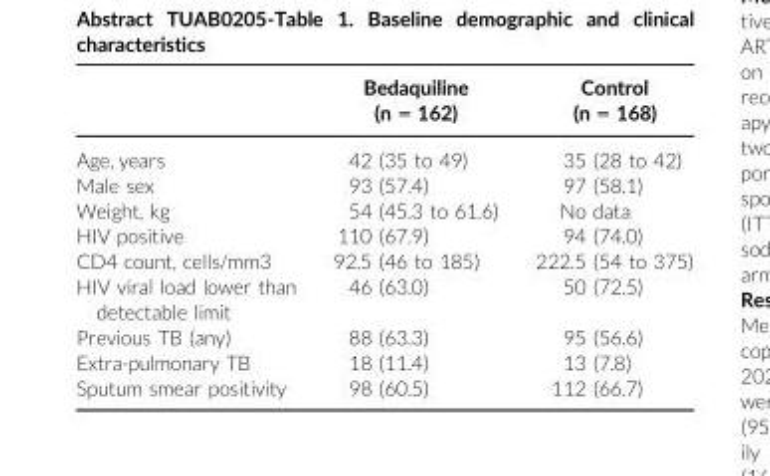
<table><thead><tr><td></td><td>Bedaquiline (n = 162)</td><td>Control (n = 168)</td></tr></thead><tbody><tr><td>Age, years</td><td>42 (35 to 49)</td><td>35 (28 to 42)</td></tr><tr><td>Male sex</td><td>93 (57.4)</td><td>97 (58.1)</td></tr><tr><td>Weight, kg</td><td>54 (45.3 to 61.6)</td><td>No data</td></tr><tr><td>HIV positive</td><td>110 (67.9)</td><td>94 (74.0)</td></tr><tr><td>CD4 count, cells/mm3</td><td>92.5 (46 to 185)</td><td>222.5 (54 to 375)</td></tr><tr><td>HIV viral load lower than detectable limit</td><td>46 (63.0)</td><td>50 (72.5)</td></tr><tr><td>Previous TB (any)</td><td>88 (63.3)</td><td>95 (56.6)</td></tr><tr><td>Extra-pulmonary TB</td><td>18 (11.4)</td><td>13 (7.8)</td></tr><tr><td>Sputum smear positivity</td><td>98 (60.5)</td><td>112 (66.7)</td></tr></tbody></table>